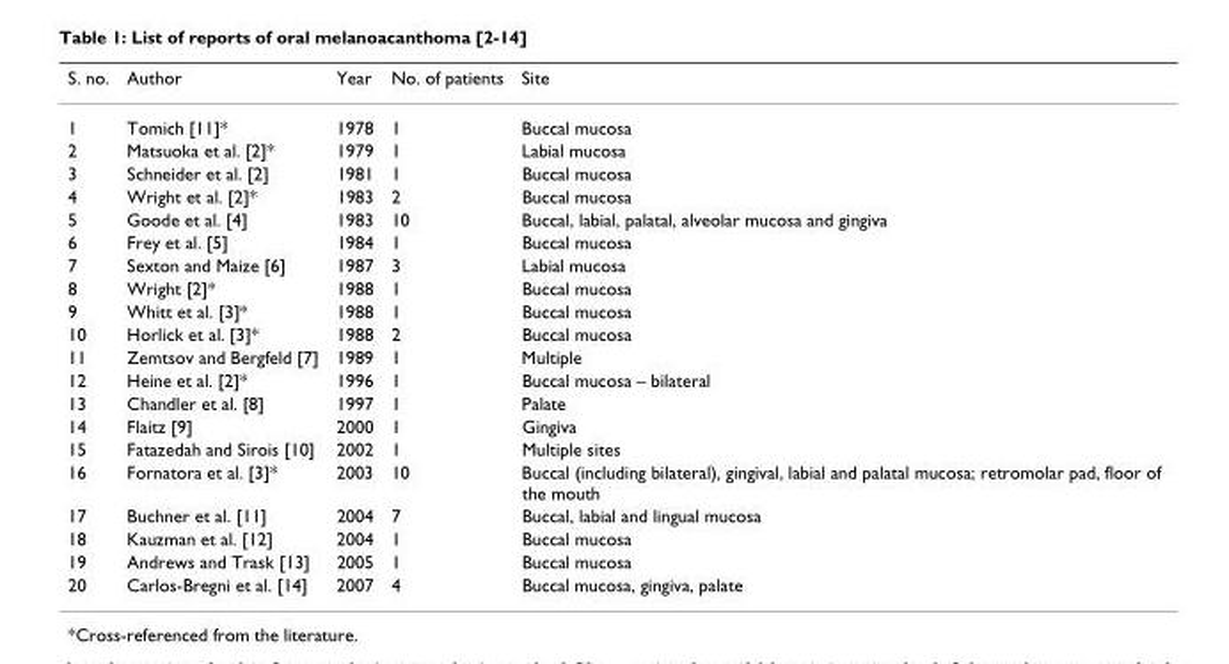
<table><thead><tr><td>S. no.</td><td>Author</td><td>Year</td><td>No. of patients</td><td>Site</td></tr></thead><tbody><tr><td>1</td><td>Tomich [11]*</td><td>1978</td><td>1</td><td>Buccal mucosa</td></tr><tr><td>2</td><td>Matsuoka et al. [2]*</td><td>1979</td><td>1</td><td>Labial mucosa</td></tr><tr><td>3</td><td>Schneider et al. [2]</td><td>1981</td><td>1</td><td>Buccal mucosa</td></tr><tr><td>4</td><td>Wright et al. [2]*</td><td>1983</td><td>2</td><td>Buccal mucosa</td></tr><tr><td>5</td><td>Goode et al. [4]</td><td>1983</td><td>10</td><td>Buccal, labial, palatal, alveolar mucosa and gingiva</td></tr><tr><td>6</td><td>Frey et al. [5]</td><td>1984</td><td>1</td><td>Buccal mucosa</td></tr><tr><td>7</td><td>Sexton and Maize [6]</td><td>1987</td><td>3</td><td>Labial mucosa</td></tr><tr><td>8</td><td>Wright [2]*</td><td>1988</td><td>1</td><td>Buccal mucosa</td></tr><tr><td>9</td><td>Whitt et al. [3]*</td><td>1988</td><td>1</td><td>Buccal mucosa</td></tr><tr><td>10</td><td>Horlick et al. [3]*</td><td>1988</td><td>2</td><td>Buccal mucosa</td></tr><tr><td>11</td><td>Zemtsov and Bergfeld [7]</td><td>1989</td><td>1</td><td>Multiple</td></tr><tr><td>12</td><td>Heine et al. [2]*</td><td>1996</td><td>1</td><td>Buccal mucosa – bilateral</td></tr><tr><td>13</td><td>Chandler et al. [8]</td><td>1997</td><td>1</td><td>Palate</td></tr><tr><td>14</td><td>Flaitz [9]</td><td>2000</td><td>1</td><td>Gingiva</td></tr><tr><td>15</td><td>Fatazedah and Sirois [10]</td><td>2002</td><td>1</td><td>Multiple sites</td></tr><tr><td>16</td><td>Fornatora et al. [3]*</td><td>2003</td><td>10</td><td>Buccal (including bilateral), gingival, labial and palatal mucosa; retromolar pad, floor of the mouth</td></tr><tr><td>17</td><td>Buchner et al. [11]</td><td>2004</td><td>7</td><td>Buccal, labial and lingual mucosa</td></tr><tr><td>18</td><td>Kauzman et al. [12]</td><td>2004</td><td>1</td><td>Buccal mucosa</td></tr><tr><td>19</td><td>Andrews and Trask [13]</td><td>2005</td><td>1</td><td>Buccal mucosa</td></tr><tr><td>20</td><td>Carlos-Bregni et al. [14]</td><td>2007</td><td>4</td><td>Buccal mucosa, gingiva, palate</td></tr></tbody></table>